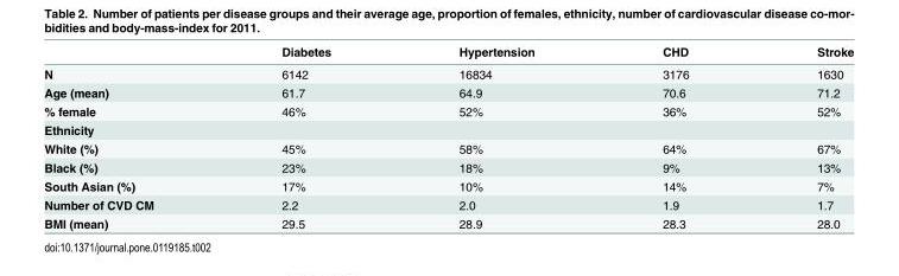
<table><thead><tr><td></td><td>Diabetes</td><td>Hypertension</td><td>CHD</td><td>Stroke</td></tr></thead><tbody><tr><td>N</td><td>6142</td><td>16834</td><td>3176</td><td>1630</td></tr><tr><td>Age (mean)</td><td>61.7</td><td>64.9</td><td>70.6</td><td>71.2</td></tr><tr><td>% female</td><td>46%</td><td>52%</td><td>36%</td><td>52%</td></tr><tr><td colspan="5">Ethnicity</td></tr><tr><td>White (%)</td><td>45%</td><td>58%</td><td>64%</td><td>67%</td></tr><tr><td>Black (%)</td><td>23%</td><td>18%</td><td>9%</td><td>13%</td></tr><tr><td>South Asian (%)</td><td>17%</td><td>10%</td><td>14%</td><td>7%</td></tr><tr><td>Number of CVD CM</td><td>2.2</td><td>2.0</td><td>1.9</td><td>1.7</td></tr><tr><td>BMI (mean)</td><td>29.5</td><td>28.9</td><td>28.3</td><td>28.0</td></tr></tbody></table>